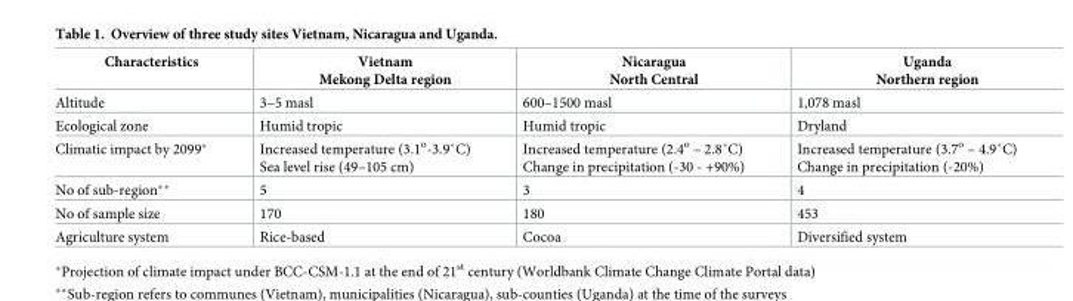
<table><thead><tr><td>Characteristics</td><td>Vietnam Mekong Delta region</td><td>Nicaragua North Central</td><td>Uganda Northern region</td></tr></thead><tbody><tr><td>Altitude</td><td>3–5 masl</td><td>600–1500 masl</td><td>1,078 masl</td></tr><tr><td>Ecological zone</td><td>Humid tropic</td><td>Humid tropic</td><td>Dryland</td></tr><tr><td>Climatic impact by 2099*</td><td>Increased temperature (3.1o-3.9˚C) Sea level rise (49–105 cm)</td><td>Increased temperature (2.4o – 2.8˚C) Change in precipitation (-30 - +90%)</td><td>Increased temperature (3.7o – 4.9˚C) Change in precipitation (-20%)</td></tr><tr><td>No of sub-region**</td><td>5</td><td>3</td><td>4</td></tr><tr><td>No of sample size</td><td>170</td><td>180</td><td>453</td></tr><tr><td>Agriculture system</td><td>Rice-based</td><td>Cocoa</td><td>Diversified system</td></tr></tbody></table>